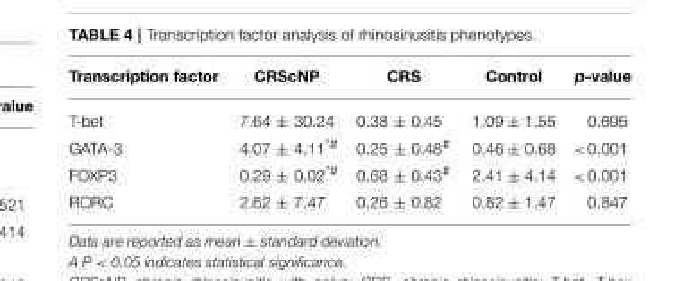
<table><thead><tr><td>Transcription factor</td><td>CRScNP</td><td>CRS</td><td>Control</td><td>p-value</td></tr></thead><tbody><tr><td>T-bet</td><td>7.64 ± 30.24</td><td>0.38 ± 0.45</td><td>1.09 ± 1.55</td><td>0.695</td></tr><tr><td>GATA-3</td><td>4.07 ± 4.11<sup>*#</sup></td><td>0.25 ± 0.48<sup>#</sup></td><td>0.46 ± 0.68</td><td>&lt;0.001</td></tr><tr><td>FOXP3</td><td>0.29 ± 0.02<sup>*#</sup></td><td>0.68 ± 0.43<sup>#</sup></td><td>2.41 ± 4.14</td><td>&lt;0.001</td></tr><tr><td>RORC</td><td>2.62 ± 7.47</td><td>0.26 ± 0.82</td><td>0.82 ± 1.47</td><td>0.847</td></tr></tbody></table>